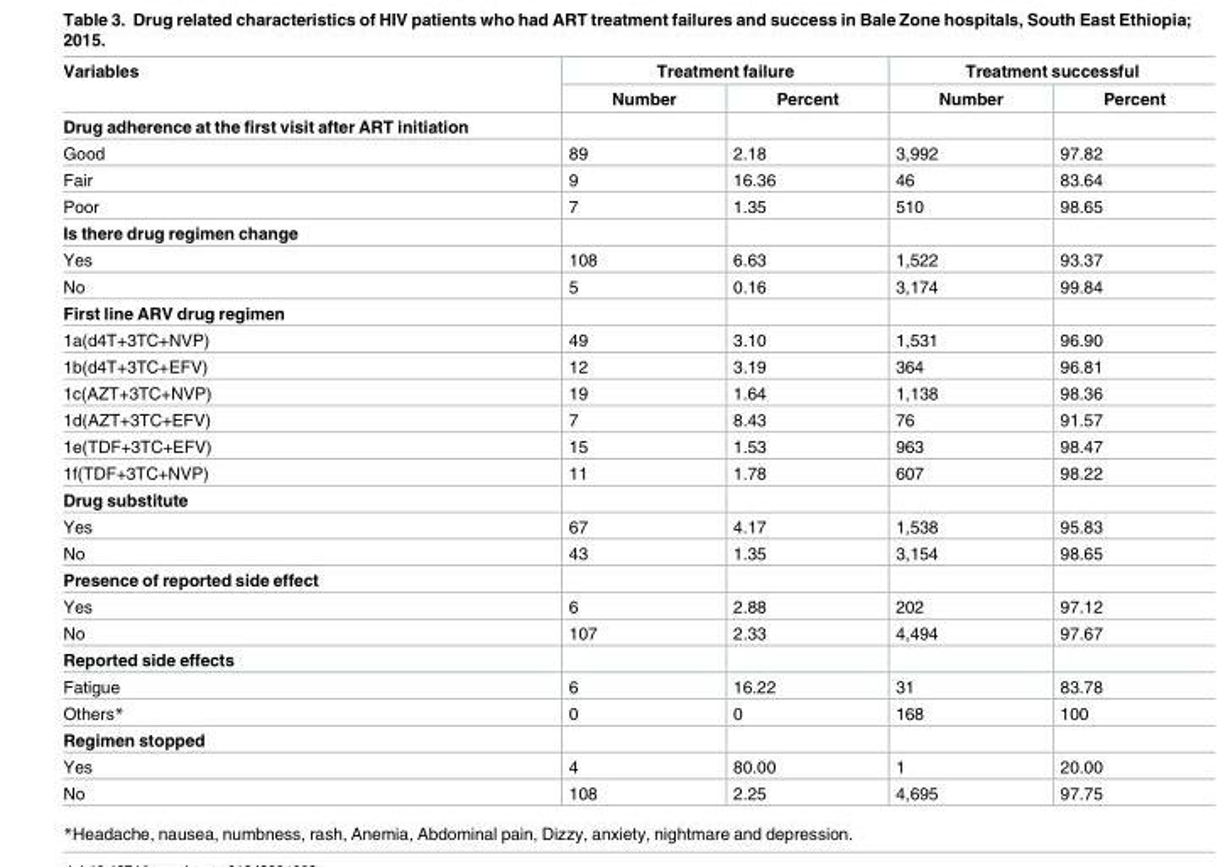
<table><thead><tr><td rowspan="2">Variables</td><td colspan="2">Treatment failure</td><td colspan="2">Treatment successful</td></tr><tr><td>Number</td><td>Percent</td><td>Number</td><td>Percent</td></tr></thead><tbody><tr><td colspan="5">Drug adherence at the first visit after ART initiation</td></tr><tr><td>Good</td><td>89</td><td>2.18</td><td>3,992</td><td>97.82</td></tr><tr><td>Fair</td><td>9</td><td>16.36</td><td>46</td><td>83.64</td></tr><tr><td>Poor</td><td>7</td><td>1.35</td><td>510</td><td>98.65</td></tr><tr><td colspan="5">Is there drug regimen change</td></tr><tr><td>Yes</td><td>108</td><td>6.63</td><td>1,522</td><td>93.37</td></tr><tr><td>No</td><td>5</td><td>0.16</td><td>3,174</td><td>99.84</td></tr><tr><td colspan="5">First line ARV drug regimen</td></tr><tr><td>1a(d4T+3TC+NVP)</td><td>49</td><td>3.10</td><td>1,531</td><td>96.90</td></tr><tr><td>1b(d4T+3TC+EFV)</td><td>12</td><td>3.19</td><td>364</td><td>96.81</td></tr><tr><td>1c(AZT+3TC+NVP)</td><td>19</td><td>1.64</td><td>1,138</td><td>98.36</td></tr><tr><td>1d(AZT+3TC+EFV)</td><td>7</td><td>8.43</td><td>76</td><td>91.57</td></tr><tr><td>1e(TDF+3TC+EFV)</td><td>15</td><td>1.53</td><td>963</td><td>98.47</td></tr><tr><td>1f(TDF+3TC+NVP)</td><td>11</td><td>1.78</td><td>607</td><td>98.22</td></tr><tr><td colspan="5">Drug substitute</td></tr><tr><td>Yes</td><td>67</td><td>4.17</td><td>1,538</td><td>95.83</td></tr><tr><td>No</td><td>43</td><td>1.35</td><td>3,154</td><td>98.65</td></tr><tr><td colspan="5">Presence of reported side effect</td></tr><tr><td>Yes</td><td>6</td><td>2.88</td><td>202</td><td>97.12</td></tr><tr><td>No</td><td>107</td><td>2.33</td><td>4,494</td><td>97.67</td></tr><tr><td colspan="5">Reported side effects</td></tr><tr><td>Fatigue</td><td>6</td><td>16.22</td><td>31</td><td>83.78</td></tr><tr><td>Others*</td><td>0</td><td>0</td><td>168</td><td>100</td></tr><tr><td colspan="5">Regimen stopped</td></tr><tr><td>Yes</td><td>4</td><td>80.00</td><td>1</td><td>20.00</td></tr><tr><td>No</td><td>108</td><td>2.25</td><td>4,695</td><td>97.75</td></tr></tbody></table>